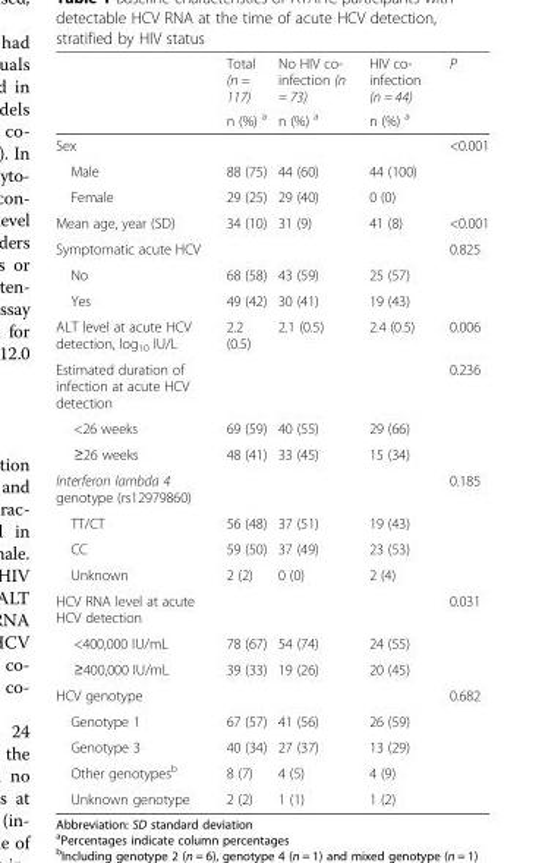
<table><thead><tr><td rowspan="2"></td><td rowspan="2">Total (n = 117) n (%) <sup>a</sup></td><td rowspan="2">No HIV co- infection (n = 73) n (%) <sup>a</sup></td><td rowspan="2">HIV co- infection (n = 44) n (%) <sup>a</sup></td><td rowspan="2">P</td></tr><tr></tr></thead><tbody><tr><td>Sex</td><td></td><td></td><td></td><td>&lt;0.001</td></tr><tr><td>Male</td><td>88 (75)</td><td>44 (60)</td><td>44 (100)</td><td></td></tr><tr><td>Female</td><td>29 (25)</td><td>29 (40)</td><td>0 (0)</td><td></td></tr><tr><td>Mean age, year (SD)</td><td>34 (10)</td><td>31 (9)</td><td>41 (8)</td><td>&lt;0.001</td></tr><tr><td>Symptomatic acute HCV</td><td></td><td></td><td></td><td>0.825</td></tr><tr><td>No</td><td>68 (58)</td><td>43 (59)</td><td>25 (57)</td><td></td></tr><tr><td>Yes</td><td>49 (42)</td><td>30 (41)</td><td>19 (43)</td><td></td></tr><tr><td>ALT level at acute HCV detection, log<sub>10</sub> IU/L</td><td>2.2 (0.5)</td><td>2.1 (0.5)</td><td>2.4 (0.5)</td><td>0.006</td></tr><tr><td>Estimated duration of infection at acute HCV detection</td><td></td><td></td><td></td><td>0.236</td></tr><tr><td>&lt;26 weeks</td><td>69 (59)</td><td>40 (55)</td><td>29 (66)</td><td></td></tr><tr><td>≥26 weeks</td><td>48 (41)</td><td>33 (45)</td><td>15 (34)</td><td></td></tr><tr><td>Interferon lambda 4 genotype (rs12979860)</td><td></td><td></td><td></td><td>0.185</td></tr><tr><td>TT/CT</td><td>56 (48)</td><td>37 (51)</td><td>19 (43)</td><td></td></tr><tr><td>CC</td><td>59 (50)</td><td>37 (49)</td><td>23 (53)</td><td></td></tr><tr><td>Unknown</td><td>2 (2)</td><td>0 (0)</td><td>2 (4)</td><td></td></tr><tr><td>HCV RNA level at acute HCV detection</td><td></td><td></td><td></td><td>0.031</td></tr><tr><td>&lt;400,000 IU/mL</td><td>78 (67)</td><td>54 (74)</td><td>24 (55)</td><td></td></tr><tr><td>≥400,000 IU/mL</td><td>39 (33)</td><td>19 (26)</td><td>20 (45)</td><td></td></tr><tr><td>HCV genotype</td><td></td><td></td><td></td><td>0.682</td></tr><tr><td>Genotype 1</td><td>67 (57)</td><td>41 (56)</td><td>26 (59)</td><td></td></tr><tr><td>Genotype 3</td><td>40 (34)</td><td>27 (37)</td><td>13 (29)</td><td></td></tr><tr><td>Other genotypes<sup>b</sup></td><td>8 (7)</td><td>4 (5)</td><td>4 (9)</td><td></td></tr><tr><td>Unknown genotype</td><td>2 (2)</td><td>1 (1)</td><td>1 (2)</td><td></td></tr></tbody></table>